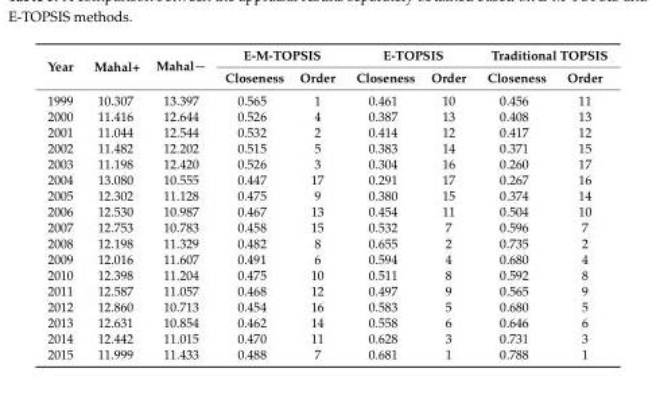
<table><thead><tr><td rowspan="2">Year</td><td rowspan="2">Mahal+</td><td rowspan="2">Mahal−</td><td colspan="2">E-M-TOPSIS</td><td colspan="2">E-TOPSIS</td><td colspan="2">Traditional TOPSIS</td></tr><tr><td>Closeness</td><td>Order</td><td>Closeness</td><td>Order</td><td>Closeness</td><td>Order</td></tr></thead><tbody><tr><td>1999</td><td>10.307</td><td>13.397</td><td>0.565</td><td>1</td><td>0.461</td><td>10</td><td>0.456</td><td>11</td></tr><tr><td>2000</td><td>11.416</td><td>12.644</td><td>0.526</td><td>4</td><td>0.387</td><td>13</td><td>0.408</td><td>13</td></tr><tr><td>2001</td><td>11.044</td><td>12.544</td><td>0.532</td><td>2</td><td>0.414</td><td>12</td><td>0.417</td><td>12</td></tr><tr><td>2002</td><td>11.482</td><td>12.202</td><td>0.515</td><td>5</td><td>0.383</td><td>14</td><td>0.371</td><td>15</td></tr><tr><td>2003</td><td>11.198</td><td>12.420</td><td>0.526</td><td>3</td><td>0.304</td><td>16</td><td>0.260</td><td>17</td></tr><tr><td>2004</td><td>13.080</td><td>10.555</td><td>0.447</td><td>17</td><td>0.291</td><td>17</td><td>0.267</td><td>16</td></tr><tr><td>2005</td><td>12.302</td><td>11.128</td><td>0.475</td><td>9</td><td>0.380</td><td>15</td><td>0.374</td><td>14</td></tr><tr><td>2006</td><td>12.530</td><td>10.987</td><td>0.467</td><td>13</td><td>0.454</td><td>11</td><td>0.504</td><td>10</td></tr><tr><td>2007</td><td>12.753</td><td>10.783</td><td>0.458</td><td>15</td><td>0.532</td><td>7</td><td>0.596</td><td>7</td></tr><tr><td>2008</td><td>12.198</td><td>11.329</td><td>0.482</td><td>8</td><td>0.655</td><td>2</td><td>0.735</td><td>2</td></tr><tr><td>2009</td><td>12.016</td><td>11.607</td><td>0.491</td><td>6</td><td>0.594</td><td>4</td><td>0.680</td><td>4</td></tr><tr><td>2010</td><td>12.398</td><td>11.204</td><td>0.475</td><td>10</td><td>0.511</td><td>8</td><td>0.592</td><td>8</td></tr><tr><td>2011</td><td>12.587</td><td>11.057</td><td>0.468</td><td>12</td><td>0.497</td><td>9</td><td>0.565</td><td>9</td></tr><tr><td>2012</td><td>12.860</td><td>10.713</td><td>0.454</td><td>16</td><td>0.583</td><td>5</td><td>0.680</td><td>5</td></tr><tr><td>2013</td><td>12.631</td><td>10.854</td><td>0.462</td><td>14</td><td>0.558</td><td>6</td><td>0.646</td><td>6</td></tr><tr><td>2014</td><td>12.442</td><td>11.015</td><td>0.470</td><td>11</td><td>0.628</td><td>3</td><td>0.731</td><td>3</td></tr><tr><td>2015</td><td>11.999</td><td>11.433</td><td>0.488</td><td>7</td><td>0.681</td><td>1</td><td>0.788</td><td>1</td></tr></tbody></table>